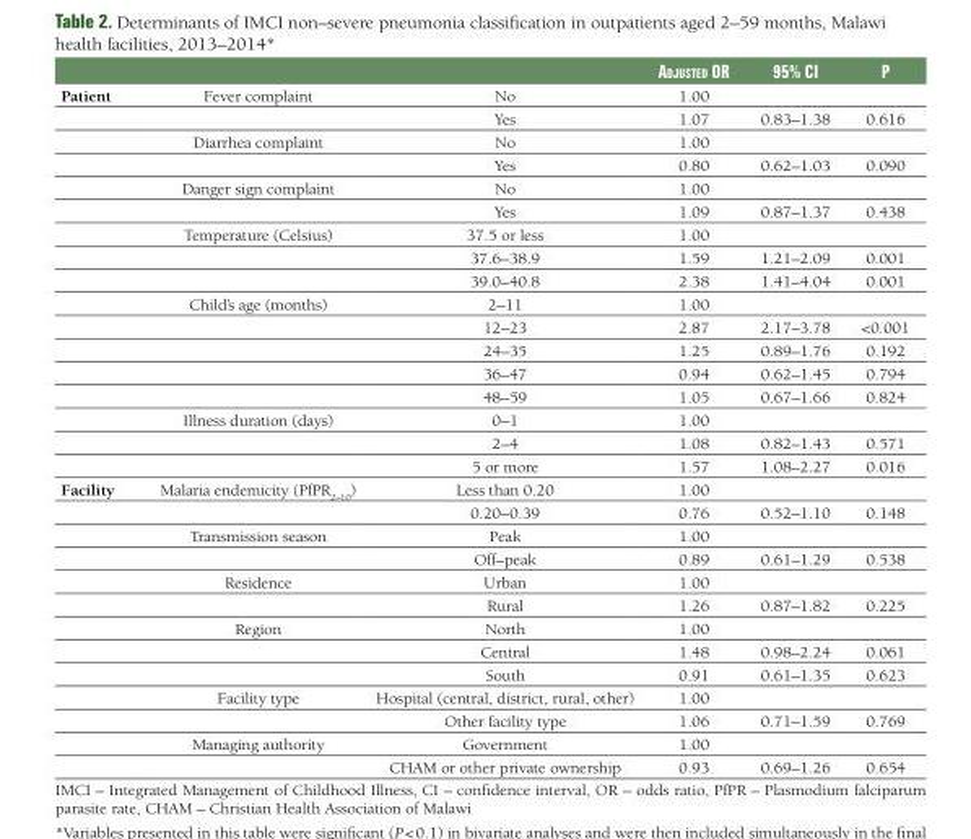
<table><thead><tr><td></td><td></td><td></td><td>adjusted Or</td><td>95% Ci</td><td>p</td></tr></thead><tbody><tr><td rowspan="17">Patient</td><td>Fever complaint</td><td>No</td><td>1.00</td><td></td><td></td></tr><tr><td></td><td>Yes</td><td>1.07</td><td>0.83–1.38</td><td>0.616</td></tr><tr><td>Diarrhea complaint</td><td>No</td><td>1.00</td><td></td><td></td></tr><tr><td></td><td>Yes</td><td>0.80</td><td>0.62–1.03</td><td>0.090</td></tr><tr><td>Danger sign complaint</td><td>No</td><td>1.00</td><td></td><td></td></tr><tr><td></td><td>Yes</td><td>1.09</td><td>0.87–1.37</td><td>0.438</td></tr><tr><td>Temperature (Celsius)</td><td>37.5 or less</td><td>1.00</td><td></td><td></td></tr><tr><td></td><td>37.6–38.9</td><td>1.59</td><td>1.21–2.09</td><td>0.001</td></tr><tr><td></td><td>39.0–40.8</td><td>2.38</td><td>1.41–4.04</td><td>0.001</td></tr><tr><td>Child’s age (months)</td><td>2–11</td><td>1.00</td><td></td><td></td></tr><tr><td></td><td>12–23</td><td>2.87</td><td>2.17–3.78</td><td>&lt;0.001</td></tr><tr><td></td><td>24–35</td><td>1.25</td><td>0.89–1.76</td><td>0.192</td></tr><tr><td></td><td>36–47</td><td>0.94</td><td>0.62–1.45</td><td>0.794</td></tr><tr><td></td><td>48–59</td><td>1.05</td><td>0.67–1.66</td><td>0.824</td></tr><tr><td>Illness duration (days)</td><td>0–1</td><td>1.00</td><td></td><td></td></tr><tr><td></td><td>2–4</td><td>1.08</td><td>0.82–1.43</td><td>0.571</td></tr><tr><td></td><td>5 or more</td><td>1.57</td><td>1.08–2.27</td><td>0.016</td></tr><tr><td rowspan="13">Facility</td><td>Malaria endemicity (PfPR<sub>2–10</sub>)</td><td>Less than 0.20</td><td>1.00</td><td></td><td></td></tr><tr><td></td><td>0.20–0.39</td><td>0.76</td><td>0.52–1.10</td><td>0.148</td></tr><tr><td>Transmission season</td><td>Peak</td><td>1.00</td><td></td><td></td></tr><tr><td></td><td>Off–peak</td><td>0.89</td><td>0.61–1.29</td><td>0.538</td></tr><tr><td>Residence</td><td>Urban</td><td>1.00</td><td></td><td></td></tr><tr><td></td><td>Rural</td><td>1.26</td><td>0.87–1.82</td><td>0.225</td></tr><tr><td>Region</td><td>North</td><td>1.00</td><td></td><td></td></tr><tr><td></td><td>Central</td><td>1.48</td><td>0.98–2.24</td><td>0.061</td></tr><tr><td></td><td>South</td><td>0.91</td><td>0.61–1.35</td><td>0.623</td></tr><tr><td>Facility type</td><td>Hospital (central, district, rural, other)</td><td>1.00</td><td></td><td></td></tr><tr><td></td><td>Other facility type</td><td>1.06</td><td>0.71–1.59</td><td>0.769</td></tr><tr><td>Managing authority</td><td>Government</td><td>1.00</td><td></td><td></td></tr><tr><td></td><td>CHAM or other private ownership</td><td>0.93</td><td>0.69–1.26</td><td>0.654</td></tr></tbody></table>